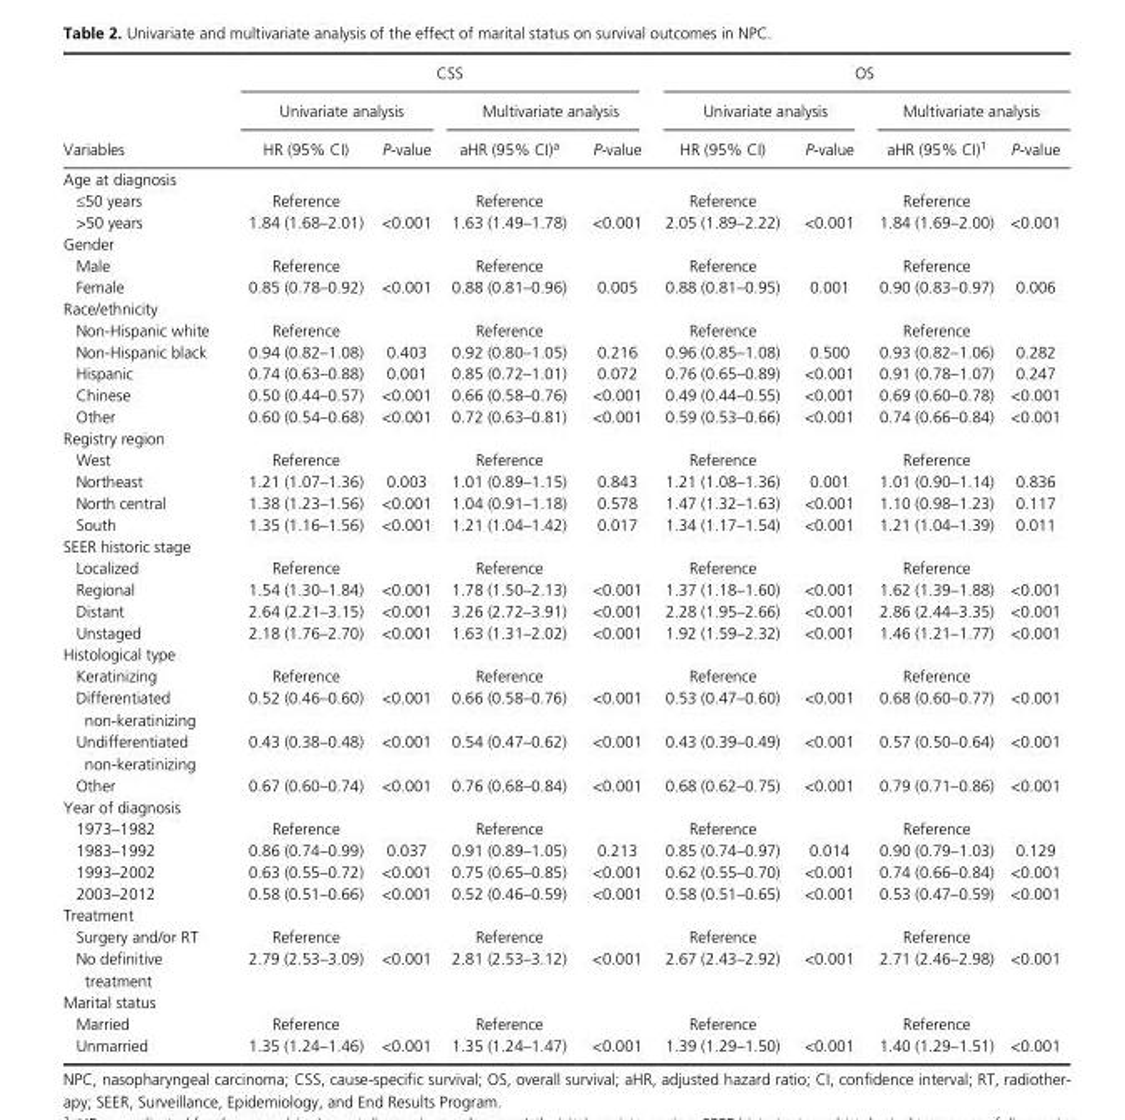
<table><thead><tr><td rowspan="3">Variables</td><td colspan="4">CSS</td><td colspan="4">OS</td></tr><tr><td colspan="2">Univariate analysis</td><td colspan="2">Multivariate analysis</td><td colspan="2">Univariate analysis</td><td colspan="2">Multivariate analysis</td></tr><tr><td>HR (95% CI)</td><td>P-value</td><td>aHR (95% CI)<sup>a</sup></td><td>P-value</td><td>HR (95% CI)</td><td>P-value</td><td>aHR (95% CI)1</td><td>P-value</td></tr></thead><tbody><tr><td colspan="9">Age at diagnosis</td></tr><tr><td>≤50 years</td><td>Reference</td><td></td><td>Reference</td><td></td><td>Reference</td><td></td><td>Reference</td><td></td></tr><tr><td>&gt;50 years</td><td>1.84 (1.68–2.01)</td><td>&lt;0.001</td><td>1.63 (1.49–1.78)</td><td>&lt;0.001</td><td>2.05 (1.89–2.22)</td><td>&lt;0.001</td><td>1.84 (1.69–2.00)</td><td>&lt;0.001</td></tr><tr><td colspan="9">Gender</td></tr><tr><td>Male</td><td>Reference</td><td></td><td>Reference</td><td></td><td>Reference</td><td></td><td>Reference</td><td></td></tr><tr><td>Female</td><td>0.85 (0.78–0.92)</td><td>&lt;0.001</td><td>0.88 (0.81–0.96)</td><td>0.005</td><td>0.88 (0.81–0.95)</td><td>0.001</td><td>0.90 (0.83–0.97)</td><td>0.006</td></tr><tr><td colspan="9">Race/ethnicity</td></tr><tr><td>Non- Hispanic white</td><td>Reference</td><td></td><td>Reference</td><td></td><td>Reference</td><td></td><td>Reference</td><td></td></tr><tr><td>Non- Hispanic black</td><td>0.94 (0.82–1.08)</td><td>0.403</td><td>0.92 (0.80–1.05)</td><td>0.216</td><td>0.96 (0.85–1.08)</td><td>0.500</td><td>0.93 (0.82–1.06)</td><td>0.282</td></tr><tr><td>Hispanic</td><td>0.74 (0.63–0.88)</td><td>0.001</td><td>0.85 (0.72–1.01)</td><td>0.072</td><td>0.76 (0.65–0.89)</td><td>&lt;0.001</td><td>0.91 (0.78–1.07)</td><td>0.247</td></tr><tr><td>Chinese</td><td>0.50 (0.44–0.57)</td><td>&lt;0.001</td><td>0.66 (0.58–0.76)</td><td>&lt;0.001</td><td>0.49 (0.44–0.55)</td><td>&lt;0.001</td><td>0.69 (0.60–0.78)</td><td>&lt;0.001</td></tr><tr><td>Other</td><td>0.60 (0.54–0.68)</td><td>&lt;0.001</td><td>0.72 (0.63–0.81)</td><td>&lt;0.001</td><td>0.59 (0.53–0.66)</td><td>&lt;0.001</td><td>0.74 (0.66–0.84)</td><td>&lt;0.001</td></tr><tr><td colspan="9">Registry region</td></tr><tr><td>West</td><td>Reference</td><td></td><td>Reference</td><td></td><td>Reference</td><td></td><td>Reference</td><td></td></tr><tr><td>Northeast</td><td>1.21 (1.07–1.36)</td><td>0.003</td><td>1.01 (0.89–1.15)</td><td>0.843</td><td>1.21 (1.08–1.36)</td><td>0.001</td><td>1.01 (0.90–1.14)</td><td>0.836</td></tr><tr><td>North central</td><td>1.38 (1.23–1.56)</td><td>&lt;0.001</td><td>1.04 (0.91–1.18)</td><td>0.578</td><td>1.47 (1.32–1.63)</td><td>&lt;0.001</td><td>1.10 (0.98–1.23)</td><td>0.117</td></tr><tr><td>South</td><td>1.35 (1.16–1.56)</td><td>&lt;0.001</td><td>1.21 (1.04–1.42)</td><td>0.017</td><td>1.34 (1.17–1.54)</td><td>&lt;0.001</td><td>1.21 (1.04–1.39)</td><td>0.011</td></tr><tr><td colspan="9">SEER historic stage</td></tr><tr><td>Localized</td><td>Reference</td><td></td><td>Reference</td><td></td><td>Reference</td><td></td><td>Reference</td><td></td></tr><tr><td>Regional</td><td>1.54 (1.30–1.84)</td><td>&lt;0.001</td><td>1.78 (1.50–2.13)</td><td>&lt;0.001</td><td>1.37 (1.18–1.60)</td><td>&lt;0.001</td><td>1.62 (1.39–1.88)</td><td>&lt;0.001</td></tr><tr><td>Distant</td><td>2.64 (2.21–3.15)</td><td>&lt;0.001</td><td>3.26 (2.72–3.91)</td><td>&lt;0.001</td><td>2.28 (1.95–2.66)</td><td>&lt;0.001</td><td>2.86 (2.44–3.35)</td><td>&lt;0.001</td></tr><tr><td>Unstaged</td><td>2.18 (1.76–2.70)</td><td>&lt;0.001</td><td>1.63 (1.31–2.02)</td><td>&lt;0.001</td><td>1.92 (1.59–2.32)</td><td>&lt;0.001</td><td>1.46 (1.21–1.77)</td><td>&lt;0.001</td></tr><tr><td colspan="9">Histological type</td></tr><tr><td>Keratinizing</td><td>Reference</td><td></td><td>Reference</td><td></td><td>Reference</td><td></td><td>Reference</td><td></td></tr><tr><td>Differentiated non- keratinizing</td><td>0.52 (0.46–0.60)</td><td>&lt;0.001</td><td>0.66 (0.58–0.76)</td><td>&lt;0.001</td><td>0.53 (0.47–0.60)</td><td>&lt;0.001</td><td>0.68 (0.60–0.77)</td><td>&lt;0.001</td></tr><tr><td>Undifferentiated non- keratinizing</td><td>0.43 (0.38–0.48)</td><td>&lt;0.001</td><td>0.54 (0.47–0.62)</td><td>&lt;0.001</td><td>0.43 (0.39–0.49)</td><td>&lt;0.001</td><td>0.57 (0.50–0.64)</td><td>&lt;0.001</td></tr><tr><td>Other</td><td>0.67 (0.60–0.74)</td><td>&lt;0.001</td><td>0.76 (0.68–0.84)</td><td>&lt;0.001</td><td>0.68 (0.62–0.75)</td><td>&lt;0.001</td><td>0.79 (0.71–0.86)</td><td>&lt;0.001</td></tr><tr><td colspan="9">Year of diagnosis</td></tr><tr><td>1973–1982</td><td>Reference</td><td></td><td>Reference</td><td></td><td>Reference</td><td></td><td>Reference</td><td></td></tr><tr><td>1983–1992</td><td>0.86 (0.74–0.99)</td><td>0.037</td><td>0.91 (0.89–1.05)</td><td>0.213</td><td>0.85 (0.74–0.97)</td><td>0.014</td><td>0.90 (0.79–1.03)</td><td>0.129</td></tr><tr><td>1993–2002</td><td>0.63 (0.55–0.72)</td><td>&lt;0.001</td><td>0.75 (0.65–0.85)</td><td>&lt;0.001</td><td>0.62 (0.55–0.70)</td><td>&lt;0.001</td><td>0.74 (0.66–0.84)</td><td>&lt;0.001</td></tr><tr><td>2003–2012</td><td>0.58 (0.51–0.66)</td><td>&lt;0.001</td><td>0.52 (0.46–0.59)</td><td>&lt;0.001</td><td>0.58 (0.51–0.65)</td><td>&lt;0.001</td><td>0.53 (0.47–0.59)</td><td>&lt;0.001</td></tr><tr><td colspan="9">Treatment</td></tr><tr><td>Surgery and/or RT</td><td>Reference</td><td></td><td>Reference</td><td></td><td>Reference</td><td></td><td>Reference</td><td></td></tr><tr><td>No definitive treatment</td><td>2.79 (2.53–3.09)</td><td>&lt;0.001</td><td>2.81 (2.53–3.12)</td><td>&lt;0.001</td><td>2.67 (2.43–2.92)</td><td>&lt;0.001</td><td>2.71 (2.46–2.98)</td><td>&lt;0.001</td></tr><tr><td colspan="9">Marital status</td></tr><tr><td>Married</td><td>Reference</td><td></td><td>Reference</td><td></td><td>Reference</td><td></td><td>Reference</td><td></td></tr><tr><td>Unmarried</td><td>1.35 (1.24–1.46)</td><td>&lt;0.001</td><td>1.35 (1.24–1.47)</td><td>&lt;0.001</td><td>1.39 (1.29–1.50)</td><td>&lt;0.001</td><td>1.40 (1.29–1.51)</td><td>&lt;0.001</td></tr></tbody></table>